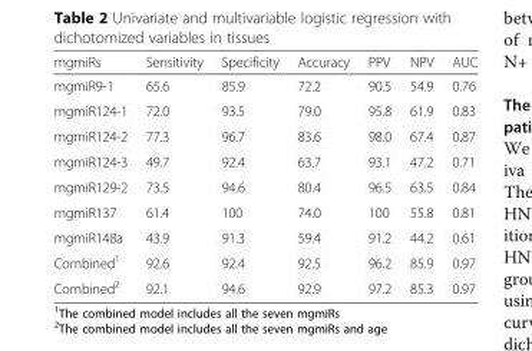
<table><thead><tr><td>mgmiRs</td><td>Sensitivity</td><td>Specificity</td><td>Accuracy</td><td>PPV</td><td>NPV</td><td>AUC</td></tr></thead><tbody><tr><td>mgmiR9-1</td><td>65.6</td><td>85.9</td><td>72.2</td><td>90.5</td><td>54.9</td><td>0.76</td></tr><tr><td>mgmiR124-1</td><td>72.0</td><td>93.5</td><td>79.0</td><td>95.8</td><td>61.9</td><td>0.83</td></tr><tr><td>mgmiR124-2</td><td>77.3</td><td>96.7</td><td>83.6</td><td>98.0</td><td>67.4</td><td>0.87</td></tr><tr><td>mgmiR124-3</td><td>49.7</td><td>92.4</td><td>63.7</td><td>93.1</td><td>47.2</td><td>0.71</td></tr><tr><td>mgmiR129-2</td><td>73.5</td><td>94.6</td><td>80.4</td><td>96.5</td><td>63.5</td><td>0.84</td></tr><tr><td>mgmiR137</td><td>61.4</td><td>100</td><td>74.0</td><td>100</td><td>55.8</td><td>0.81</td></tr><tr><td>mgmiR148a</td><td>43.9</td><td>91.3</td><td>59.4</td><td>91.2</td><td>44.2</td><td>0.61</td></tr><tr><td>Combined<sup>1</sup></td><td>92.6</td><td>92.4</td><td>92.5</td><td>96.2</td><td>85.9</td><td>0.97</td></tr><tr><td>Combined<sup>2</sup></td><td>92.1</td><td>94.6</td><td>92.9</td><td>97.2</td><td>85.3</td><td>0.97</td></tr></tbody></table>